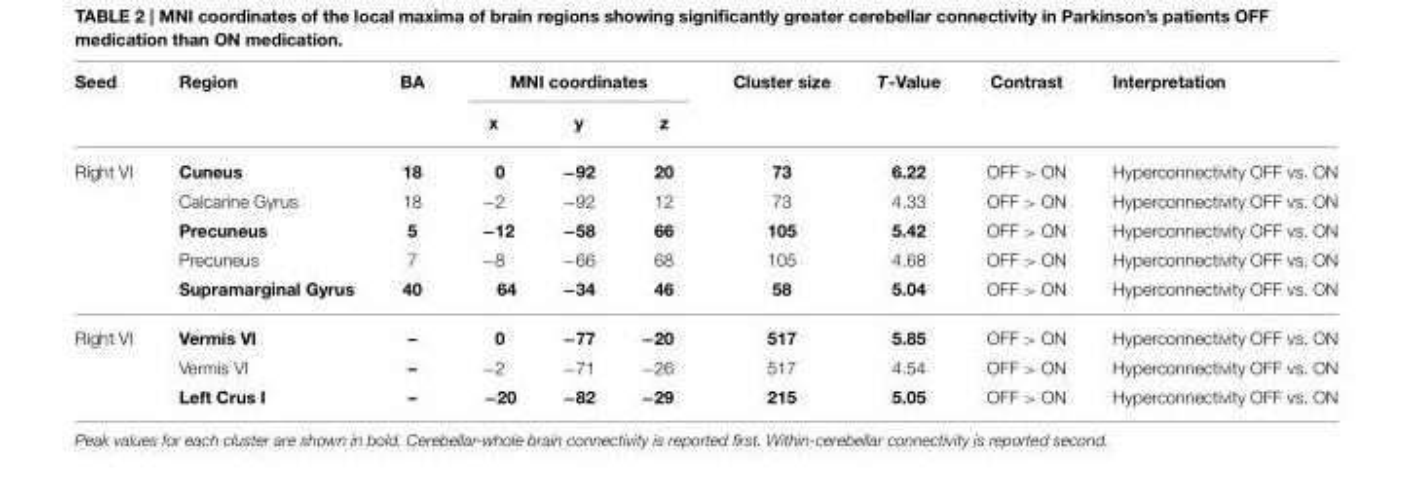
<table><thead><tr><td rowspan="2">Seed</td><td rowspan="2">Region</td><td rowspan="2">BA</td><td colspan="3">MNI coordinates</td><td rowspan="2">Cluster size</td><td rowspan="2">T-Value</td><td rowspan="2">Contrast</td><td rowspan="2">Interpretation</td></tr><tr><td>x</td><td>y</td><td>z</td></tr></thead><tbody><tr><td rowspan="5">Right VI</td><td>Cuneus</td><td>18</td><td>0</td><td>−92</td><td>20</td><td>73</td><td>6.22</td><td>OFF &gt; ON</td><td>Hyperconnectivity OFF vs. ON</td></tr><tr><td>Calcarine Gyrus</td><td>18</td><td>−2</td><td>−92</td><td>12</td><td>73</td><td>4.33</td><td>OFF &gt; ON</td><td>Hyperconnectivity OFF vs. ON</td></tr><tr><td>Precuneus</td><td>5</td><td>−12</td><td>−58</td><td>66</td><td>105</td><td>5.42</td><td>OFF &gt; ON</td><td>Hyperconnectivity OFF vs. ON</td></tr><tr><td>Precuneus</td><td>7</td><td>−8</td><td>−66</td><td>68</td><td>105</td><td>4.68</td><td>OFF &gt; ON</td><td>Hyperconnectivity OFF vs. ON</td></tr><tr><td>Supramarginal Gyrus</td><td>40</td><td>64</td><td>−34</td><td>46</td><td>58</td><td>5.04</td><td>OFF &gt; ON</td><td>Hyperconnectivity OFF vs. ON</td></tr><tr><td rowspan="3">Right VI</td><td>Vermis VI</td><td>–</td><td>0</td><td>−77</td><td>−20</td><td>517</td><td>5.85</td><td>OFF &gt; ON</td><td>Hyperconnectivity OFF vs. ON</td></tr><tr><td>Vermis VI</td><td>–</td><td>−2</td><td>−71</td><td>−26</td><td>517</td><td>4.54</td><td>OFF &gt; ON</td><td>Hyperconnectivity OFF vs. ON</td></tr><tr><td>Left Crus I</td><td>–</td><td>−20</td><td>−82</td><td>−29</td><td>215</td><td>5.05</td><td>OFF &gt; ON</td><td>Hyperconnectivity OFF vs. ON</td></tr></tbody></table>